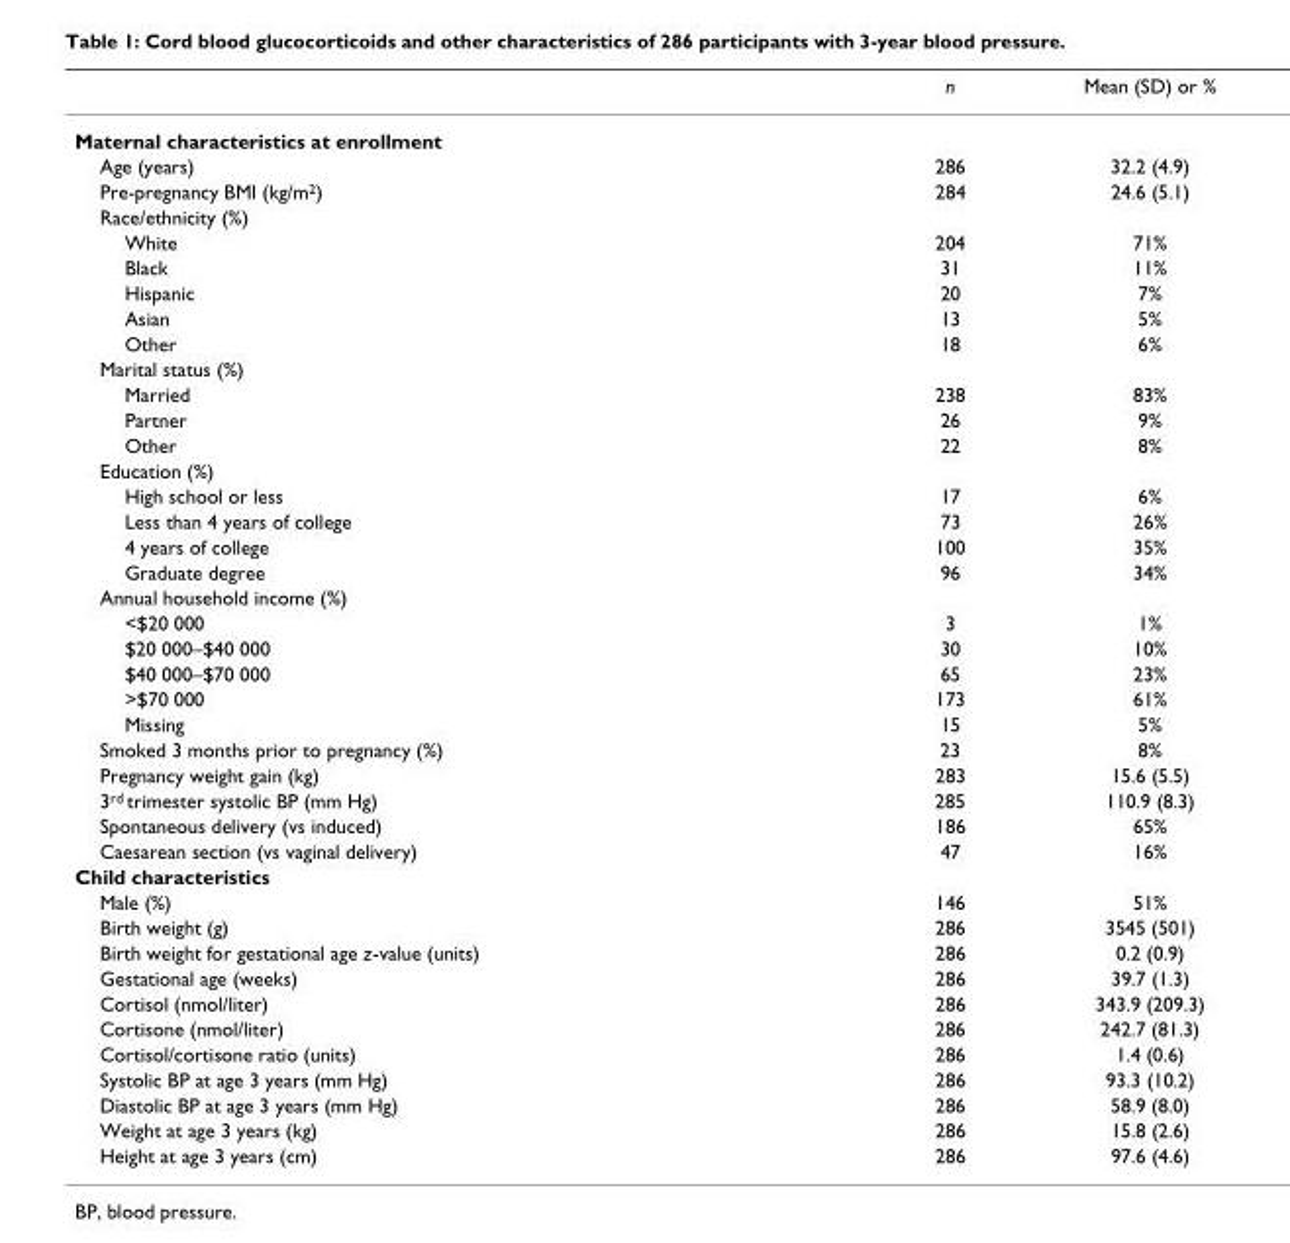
<table><thead><tr><td></td><td>n</td><td>Mean (SD) or %</td></tr></thead><tbody><tr><td colspan="3">Maternal characteristics at enrollment</td></tr><tr><td>Age (years)</td><td>286</td><td>32.2 (4.9)</td></tr><tr><td>Pre-pregnancy BMI (kg/m<sup>2</sup>)</td><td>284</td><td>24.6 (5.1)</td></tr><tr><td colspan="3">Race/ethnicity (%)</td></tr><tr><td>White</td><td>204</td><td>71%</td></tr><tr><td>Black</td><td>31</td><td>11%</td></tr><tr><td>Hispanic</td><td>20</td><td>7%</td></tr><tr><td>Asian</td><td>13</td><td>5%</td></tr><tr><td>Other</td><td>18</td><td>6%</td></tr><tr><td colspan="3">Marital status (%)</td></tr><tr><td>Married</td><td>238</td><td>83%</td></tr><tr><td>Partner</td><td>26</td><td>9%</td></tr><tr><td>Other</td><td>22</td><td>8%</td></tr><tr><td colspan="3">Education (%)</td></tr><tr><td>High school or less</td><td>17</td><td>6%</td></tr><tr><td>Less than 4 years of college</td><td>73</td><td>26%</td></tr><tr><td>4 years of college</td><td>100</td><td>35%</td></tr><tr><td>Graduate degree</td><td>96</td><td>34%</td></tr><tr><td colspan="3">Annual household income (%)</td></tr><tr><td>&lt;$20 000</td><td>3</td><td>1%</td></tr><tr><td>$20 000–$40 000</td><td>30</td><td>10%</td></tr><tr><td>$40 000–$70 000</td><td>65</td><td>23%</td></tr><tr><td>&gt;$70 000</td><td>173</td><td>61%</td></tr><tr><td>Missing</td><td>15</td><td>5%</td></tr><tr><td>Smoked 3 months prior to pregnancy (%)</td><td>23</td><td>8%</td></tr><tr><td>Pregnancy weight gain (kg)</td><td>283</td><td>15.6 (5.5)</td></tr><tr><td>3<sup>rd</sup> trimester systolic BP (mm Hg)</td><td>285</td><td>110.9 (8.3)</td></tr><tr><td>Spontaneous delivery (vs induced)</td><td>186</td><td>65%</td></tr><tr><td>Caesarean section (vs vaginal delivery)</td><td>47</td><td>16%</td></tr><tr><td colspan="3">Child characteristics</td></tr><tr><td>Male (%)</td><td>146</td><td>51%</td></tr><tr><td>Birth weight (g)</td><td>286</td><td>3545 (501)</td></tr><tr><td>Birth weight for gestational age z-value (units)</td><td>286</td><td>0.2 (0.9)</td></tr><tr><td>Gestational age (weeks)</td><td>286</td><td>39.7 (1.3)</td></tr><tr><td>Cortisol (nmol/liter)</td><td>286</td><td>343.9 (209.3)</td></tr><tr><td>Cortisone (nmol/liter)</td><td>286</td><td>242.7 (81.3)</td></tr><tr><td>Cortisol/cortisone ratio (units)</td><td>286</td><td>1.4 (0.6)</td></tr><tr><td>Systolic BP at age 3 years (mm Hg)</td><td>286</td><td>93.3 (10.2)</td></tr><tr><td>Diastolic BP at age 3 years (mm Hg)</td><td>286</td><td>58.9 (8.0)</td></tr><tr><td>Weight at age 3 years (kg)</td><td>286</td><td>15.8 (2.6)</td></tr><tr><td>Height at age 3 years (cm)</td><td>286</td><td>97.6 (4.6)</td></tr></tbody></table>